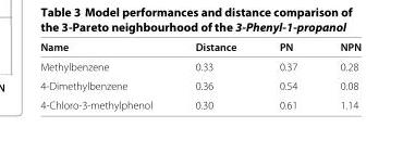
<table><thead><tr><td>Name</td><td>Distance</td><td>PN</td><td>NPN</td></tr></thead><tbody><tr><td>Methylbenzene</td><td>0.33</td><td>0.37</td><td>0.28</td></tr><tr><td>4-Dimethylbenzene</td><td>0.36</td><td>0.54</td><td>0.08</td></tr><tr><td>4-Chloro-3-methylphenol</td><td>0.30</td><td>0.61</td><td>1.14</td></tr></tbody></table>